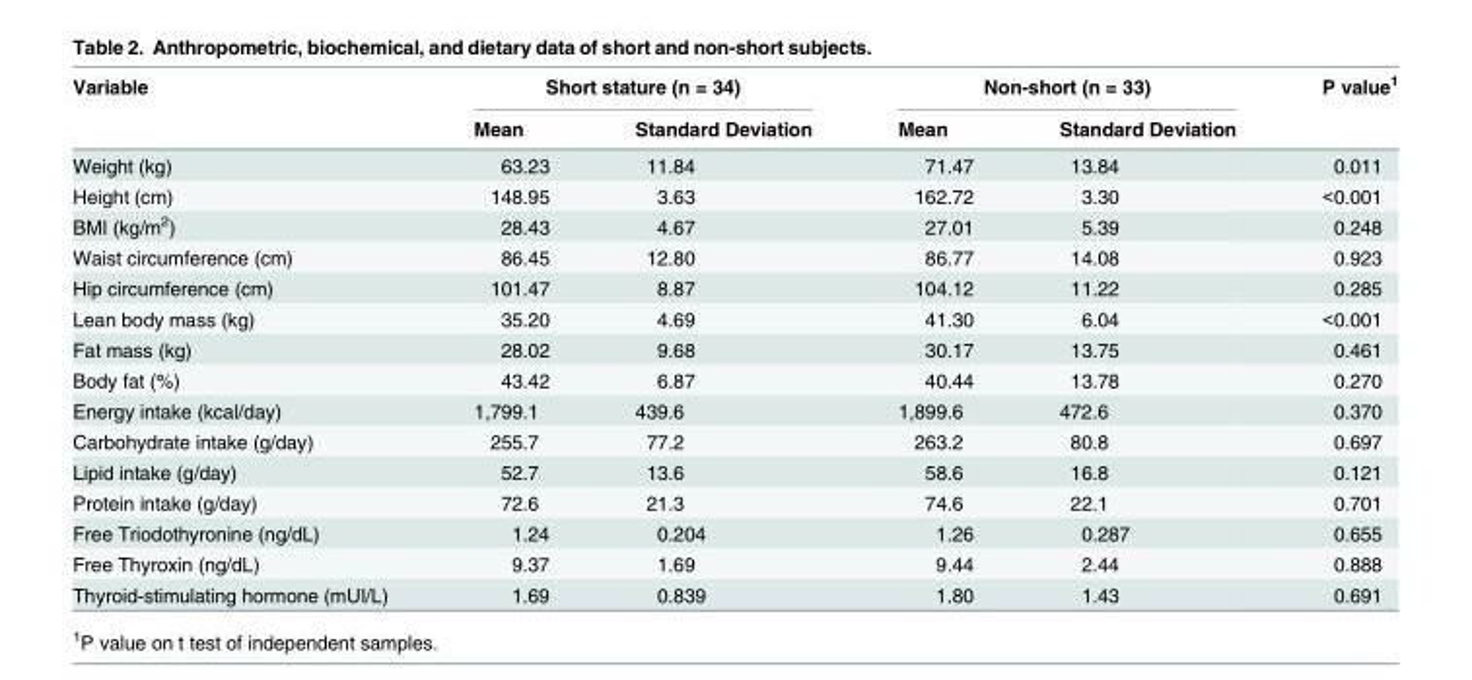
<table><thead><tr><td rowspan="2">Variable</td><td colspan="2">Short stature (n = 34)</td><td colspan="2">Non-short (n = 33)</td><td rowspan="2">P value<sup>1</sup></td></tr><tr><td>Mean</td><td>Standard Deviation</td><td>Mean</td><td>Standard Deviation</td></tr></thead><tbody><tr><td>Weight (kg)</td><td>63.23</td><td>11.84</td><td>71.47</td><td>13.84</td><td>0.011</td></tr><tr><td>Height (cm)</td><td>148.95</td><td>3.63</td><td>162.72</td><td>3.30</td><td>&lt;0.001</td></tr><tr><td>BMI (kg/m<sup>2</sup>)</td><td>28.43</td><td>4.67</td><td>27.01</td><td>5.39</td><td>0.248</td></tr><tr><td>Waist circumference (cm)</td><td>86.45</td><td>12.80</td><td>86.77</td><td>14.08</td><td>0.923</td></tr><tr><td>Hip circumference (cm)</td><td>101.47</td><td>8.87</td><td>104.12</td><td>11.22</td><td>0.285</td></tr><tr><td>Lean body mass (kg)</td><td>35.20</td><td>4.69</td><td>41.30</td><td>6.04</td><td>&lt;0.001</td></tr><tr><td>Fat mass (kg)</td><td>28.02</td><td>9.68</td><td>30.17</td><td>13.75</td><td>0.461</td></tr><tr><td>Body fat (%)</td><td>43.42</td><td>6.87</td><td>40.44</td><td>13.78</td><td>0.270</td></tr><tr><td>Energy intake (kcal/day)</td><td>1,799.1</td><td>439.6</td><td>1,899.6</td><td>472.6</td><td>0.370</td></tr><tr><td>Carbohydrate intake (g/day)</td><td>255.7</td><td>77.2</td><td>263.2</td><td>80.8</td><td>0.697</td></tr><tr><td>Lipid intake (g/day)</td><td>52.7</td><td>13.6</td><td>58.6</td><td>16.8</td><td>0.121</td></tr><tr><td>Protein intake (g/day)</td><td>72.6</td><td>21.3</td><td>74.6</td><td>22.1</td><td>0.701</td></tr><tr><td>Free Triodothyronine (ng/dL)</td><td>1.24</td><td>0.204</td><td>1.26</td><td>0.287</td><td>0.655</td></tr><tr><td>Free Thyroxin (ng/dL)</td><td>9.37</td><td>1.69</td><td>9.44</td><td>2.44</td><td>0.888</td></tr><tr><td>Thyroid-stimulating hormone (mUI/L)</td><td>1.69</td><td>0.839</td><td>1.80</td><td>1.43</td><td>0.691</td></tr></tbody></table>